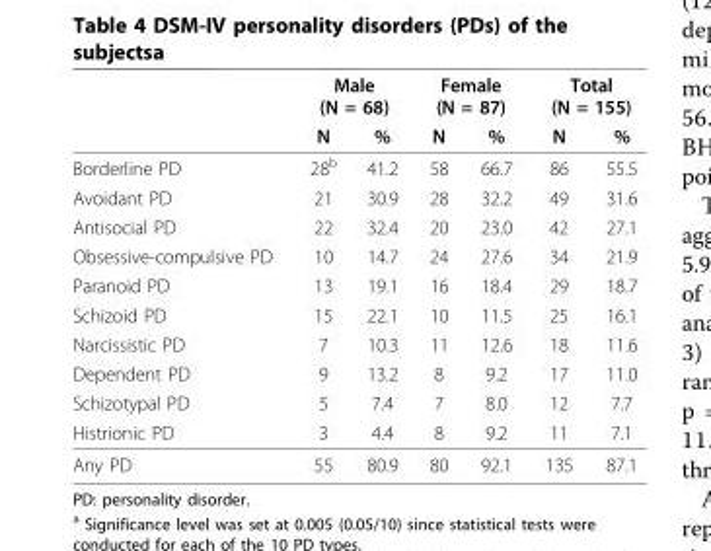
<table><thead><tr><td rowspan="2"></td><td colspan="2">Male (N = 68)</td><td colspan="2">Female (N = 87)</td><td colspan="2">Total (N = 155)</td></tr><tr><td>N</td><td>%</td><td>N</td><td>%</td><td>N</td><td>%</td></tr></thead><tbody><tr><td>Borderline PD</td><td>28<sup>b</sup></td><td>41.2</td><td>58</td><td>66.7</td><td>86</td><td>55.5</td></tr><tr><td>Avoidant PD</td><td>21</td><td>30.9</td><td>28</td><td>32.2</td><td>49</td><td>31.6</td></tr><tr><td>Antisocial PD</td><td>22</td><td>32.4</td><td>20</td><td>23.0</td><td>42</td><td>27.1</td></tr><tr><td>Obsessive-compulsive PD</td><td>10</td><td>14.7</td><td>24</td><td>27.6</td><td>34</td><td>21.9</td></tr><tr><td>Paranoid PD</td><td>13</td><td>19.1</td><td>16</td><td>18.4</td><td>29</td><td>18.7</td></tr><tr><td>Schizoid PD</td><td>15</td><td>22.1</td><td>10</td><td>11.5</td><td>25</td><td>16.1</td></tr><tr><td>Narcissistic PD</td><td>7</td><td>10.3</td><td>11</td><td>12.6</td><td>18</td><td>11.6</td></tr><tr><td>Dependent PD</td><td>9</td><td>13.2</td><td>8</td><td>9.2</td><td>17</td><td>11.0</td></tr><tr><td>Schizotypal PD</td><td>5</td><td>7.4</td><td>7</td><td>8.0</td><td>12</td><td>7.7</td></tr><tr><td>Histrionic PD</td><td>3</td><td>4.4</td><td>8</td><td>9.2</td><td>11</td><td>7.1</td></tr><tr><td>Any PD</td><td>55</td><td>80.9</td><td>80</td><td>92.1</td><td>135</td><td>87.1</td></tr></tbody></table>